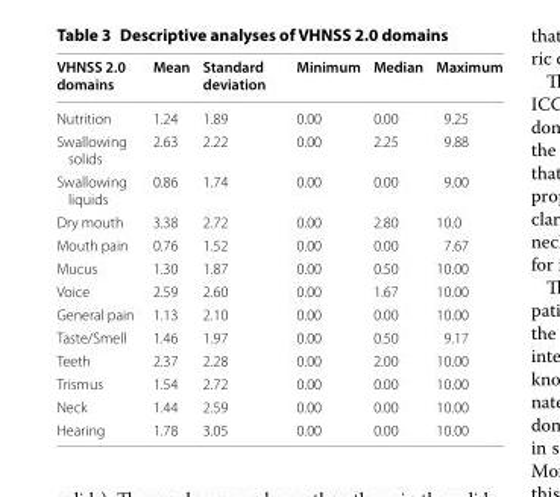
<table><thead><tr><td>VHNSS 2.0 domains</td><td>Mean</td><td>Standard deviation</td><td>Minimum</td><td>Median</td><td>Maximum</td></tr></thead><tbody><tr><td>Nutrition</td><td>1.24</td><td>1.89</td><td>0.00</td><td>0.00</td><td>9.25</td></tr><tr><td>Swallowing solids</td><td>2.63</td><td>2.22</td><td>0.00</td><td>2.25</td><td>9.88</td></tr><tr><td>Swallowing liquids</td><td>0.86</td><td>1.74</td><td>0.00</td><td>0.00</td><td>9.00</td></tr><tr><td>Dry mouth</td><td>3.38</td><td>2.72</td><td>0.00</td><td>2.80</td><td>10.0</td></tr><tr><td>Mouth pain</td><td>0.76</td><td>1.52</td><td>0.00</td><td>0.00</td><td>7.67</td></tr><tr><td>Mucus</td><td>1.30</td><td>1.87</td><td>0.00</td><td>0.50</td><td>10.00</td></tr><tr><td>Voice</td><td>2.59</td><td>2.60</td><td>0.00</td><td>1.67</td><td>10.00</td></tr><tr><td>General pain</td><td>1.13</td><td>2.10</td><td>0.00</td><td>0.00</td><td>10.00</td></tr><tr><td>Taste/Smell</td><td>1.46</td><td>1.97</td><td>0.00</td><td>0.50</td><td>9.17</td></tr><tr><td>Teeth</td><td>2.37</td><td>2.28</td><td>0.00</td><td>2.00</td><td>10.00</td></tr><tr><td>Trismus</td><td>1.54</td><td>2.72</td><td>0.00</td><td>0.00</td><td>10.00</td></tr><tr><td>Neck</td><td>1.44</td><td>2.59</td><td>0.00</td><td>0.00</td><td>10.00</td></tr><tr><td>Hearing</td><td>1.78</td><td>3.05</td><td>0.00</td><td>0.00</td><td>10.00</td></tr></tbody></table>